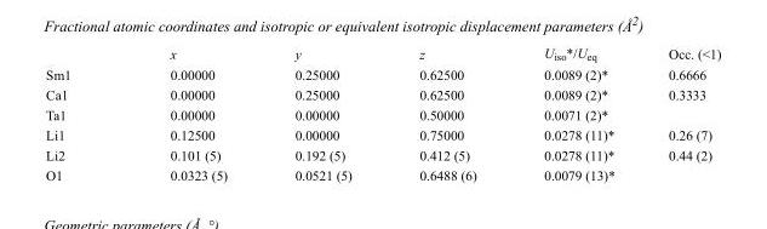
<table><thead><tr><td></td><td>x</td><td>y</td><td>z</td><td>U<sub>iso</sub>*/U<sub>eq</sub></td><td>Occ. (&lt;1)</td></tr></thead><tbody><tr><td>Sm1</td><td>0.00000</td><td>0.25000</td><td>0.62500</td><td>0.0089 (2)*</td><td>0.6666</td></tr><tr><td>Ca1</td><td>0.00000</td><td>0.25000</td><td>0.62500</td><td>0.0089 (2)*</td><td>0.3333</td></tr><tr><td>Ta1</td><td>0.00000</td><td>0.00000</td><td>0.50000</td><td>0.0071 (2)*</td><td></td></tr><tr><td>Li1</td><td>0.12500</td><td>0.00000</td><td>0.75000</td><td>0.0278 (11)*</td><td>0.26 (7)</td></tr><tr><td>Li2</td><td>0.101 (5)</td><td>0.192 (5)</td><td>0.412 (5)</td><td>0.0278 (11)*</td><td>0.44 (2)</td></tr><tr><td>O1</td><td>0.0323 (5)</td><td>0.0521 (5)</td><td>0.6488 (6)</td><td>0.0079 (13)*</td><td></td></tr></tbody></table>